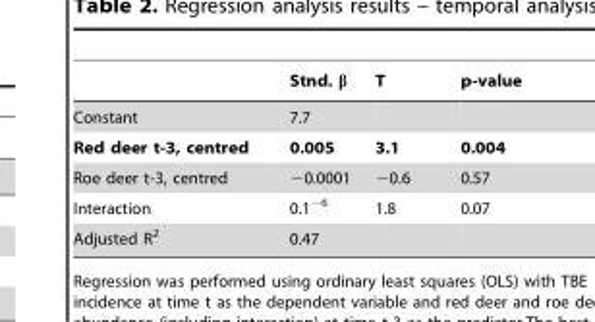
<table><thead><tr><td></td><td>Stnd. β</td><td>T</td><td>p-value</td></tr></thead><tbody><tr><td>Constant</td><td>7.7</td><td></td><td></td></tr><tr><td>Red deer t-3, centred</td><td>0.005</td><td>3.1</td><td>0.004</td></tr><tr><td>Roe deer t-3, centred</td><td>−0.0001</td><td>−0.6</td><td>0.57</td></tr><tr><td>Interaction</td><td>0.1<sup>−6</sup></td><td>1.8</td><td>0.07</td></tr><tr><td>Adjusted R<sup>2</sup></td><td>0.47</td><td></td><td></td></tr></tbody></table>